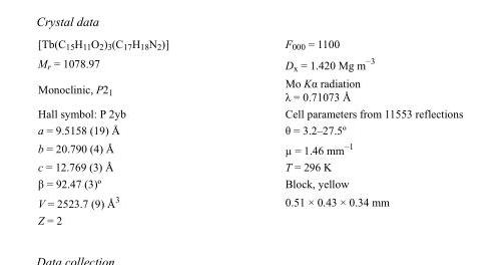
<table><tbody><tr><td>[Tb(C<sub>15</sub>H<sub>11</sub>O<sub>2</sub>)<sub>3</sub>(C<sub>17</sub>H<sub>18</sub>N<sub>2</sub>)]</td><td>F000 = 1100</td></tr><tr><td>M<sub>r</sub> = 1078.97</td><td>D<sub>x</sub> = 1.420 Mg m<sup>−3</sup></td></tr><tr><td>Monoclinic, P2<sub>1</sub></td><td>Mo Kα radiation λ = 0.71073 Å</td></tr><tr><td>Hall symbol: P 2yb</td><td>Cell parameters from 11553 reflections</td></tr><tr><td>a = 9.5158 (19) Å</td><td>θ = 3.2–27.5º</td></tr><tr><td>b = 20.790 (4) Å</td><td>µ = 1.46 mm<sup>−1</sup></td></tr><tr><td>c = 12.769 (3) Å</td><td>T = 296 K</td></tr><tr><td>β = 92.47 (3)º</td><td>Block, yellow</td></tr><tr><td>V = 2523.7 (9) Å<sup>3</sup></td><td>0.51 × 0.43 × 0.34 mm</td></tr><tr><td>Z = 2</td><td></td></tr></tbody></table>